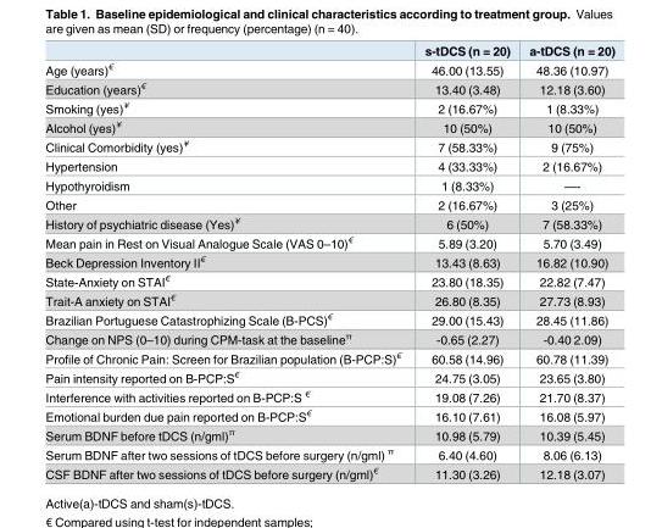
<table><thead><tr><td></td><td>s-tDCS (n = 20)</td><td>a-tDCS (n = 20)</td></tr></thead><tbody><tr><td>Age (years)<sup>€</sup></td><td>46.00 (13.55)</td><td>48.36 (10.97)</td></tr><tr><td>Education (years)<sup>€</sup></td><td>13.40 (3.48)</td><td>12.18 (3.60)</td></tr><tr><td>Smoking (yes)<sup>¥</sup></td><td>2 (16.67%)</td><td>1 (8.33%)</td></tr><tr><td>Alcohol (yes)<sup>¥</sup></td><td>10 (50%)</td><td>10 (50%)</td></tr><tr><td>Clinical Comorbidity (yes)<sup>¥</sup></td><td>7 (58.33%)</td><td>9 (75%)</td></tr><tr><td>Hypertension</td><td>4 (33.33%)</td><td>2 (16.67%)</td></tr><tr><td>Hypothyroidism</td><td>1 (8.33%)</td><td>—-</td></tr><tr><td>Other</td><td>2 (16.67%)</td><td>3 (25%)</td></tr><tr><td>History of psychiatric disease (Yes)<sup>¥</sup></td><td>6 (50%)</td><td>7 (58.33%)</td></tr><tr><td>Mean pain in Rest on Visual Analogue Scale (VAS 0–10)<sup>€</sup></td><td>5.89 (3.20)</td><td>5.70 (3.49)</td></tr><tr><td>Beck Depression Inventory II<sup>€</sup></td><td>13.43 (8.63)</td><td>16.82 (10.90)</td></tr><tr><td>State-Anxiety on STAI<sup>€</sup></td><td>23.80 (18.35)</td><td>22.82 (7.47)</td></tr><tr><td>Trait-A anxiety on STAI<sup>€</sup></td><td>26.80 (8.35)</td><td>27.73 (8.93)</td></tr><tr><td>Brazilian Portuguese Catastrophizing Scale (B-PCS)<sup>€</sup></td><td>29.00 (15.43)</td><td>28.45 (11.86)</td></tr><tr><td>Change on NPS (0–10) during CPM-task at the baseline<sup>π</sup></td><td>-0.65 (2.27)</td><td>-0.40 2.09)</td></tr><tr><td>Profile of Chronic Pain: Screen for Brazilian population (B-PCP:S)<sup>€</sup></td><td>60.58 (14.96)</td><td>60.78 (11.39)</td></tr><tr><td>Pain intensity reported on B-PCP:S<sup>€</sup></td><td>24.75 (3.05)</td><td>23.65 (3.80)</td></tr><tr><td>Interference with activities reported on B-PCP:S <sup>€</sup></td><td>19.08 (7.26)</td><td>21.70 (8.37)</td></tr><tr><td>Emotional burden due pain reported on B-PCP:S<sup>€</sup></td><td>16.10 (7.61)</td><td>16.08 (5.97)</td></tr><tr><td>Serum BDNF before tDCS (n/gml)<sup>π</sup></td><td>10.98 (5.79)</td><td>10.39 (5.45)</td></tr><tr><td>Serum BDNF after two sessions of tDCS before surgery (n/gml) <sup>π</sup></td><td>6.40 (4.60)</td><td>8.06 (6.13)</td></tr><tr><td>CSF BDNF after two sessions of tDCS before surgery (n/gml)<sup>€</sup></td><td>11.30 (3.26)</td><td>12.18 (3.07)</td></tr></tbody></table>